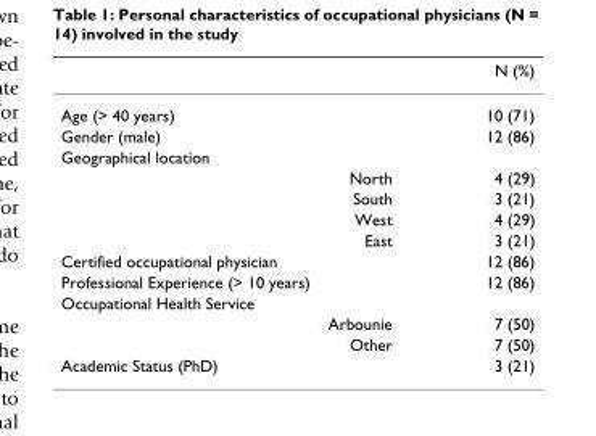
<table><thead><tr><td></td><td>N (%)</td></tr></thead><tbody><tr><td>Age (&gt; 40 years)</td><td>10 (71)</td></tr><tr><td>Gender (male)</td><td>12 (86)</td></tr><tr><td colspan="2">Geographical location</td></tr><tr><td>North</td><td>4 (29)</td></tr><tr><td>South</td><td>3 (21)</td></tr><tr><td>West</td><td>4 (29)</td></tr><tr><td>East</td><td>3 (21)</td></tr><tr><td>Certified occupational physician</td><td>12 (86)</td></tr><tr><td>Professional Experience (&gt; 10 years)</td><td>12 (86)</td></tr><tr><td colspan="2">Occupational Health Service</td></tr><tr><td>Arbounie</td><td>7 (50)</td></tr><tr><td>Other</td><td>7 (50)</td></tr><tr><td>Academic Status (PhD)</td><td>3 (21)</td></tr></tbody></table>